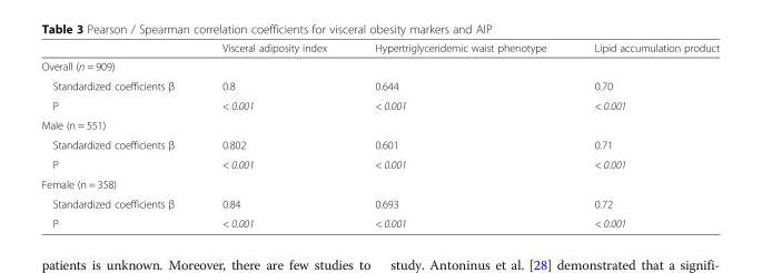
<table><thead><tr><td></td><td>Visceral adiposity index</td><td>Hypertriglyceridemic waist phenotype</td><td>Lipid accumulation product</td></tr></thead><tbody><tr><td colspan="4">Overall (n = 909)</td></tr><tr><td>Standardized coefficients β</td><td>0.8</td><td>0.644</td><td>0.70</td></tr><tr><td>P</td><td>&lt; 0.001</td><td>&lt; 0.001</td><td>&lt; 0.001</td></tr><tr><td colspan="4">Male (n = 551)</td></tr><tr><td>Standardized coefficients β</td><td>0.802</td><td>0.601</td><td>0.71</td></tr><tr><td>P</td><td>&lt; 0.001</td><td>&lt; 0.001</td><td>&lt; 0.001</td></tr><tr><td colspan="4">Female (n = 358)</td></tr><tr><td>Standardized coefficients β</td><td>0.84</td><td>0.693</td><td>0.72</td></tr><tr><td>P</td><td>&lt; 0.001</td><td>&lt; 0.001</td><td>&lt; 0.001</td></tr></tbody></table>